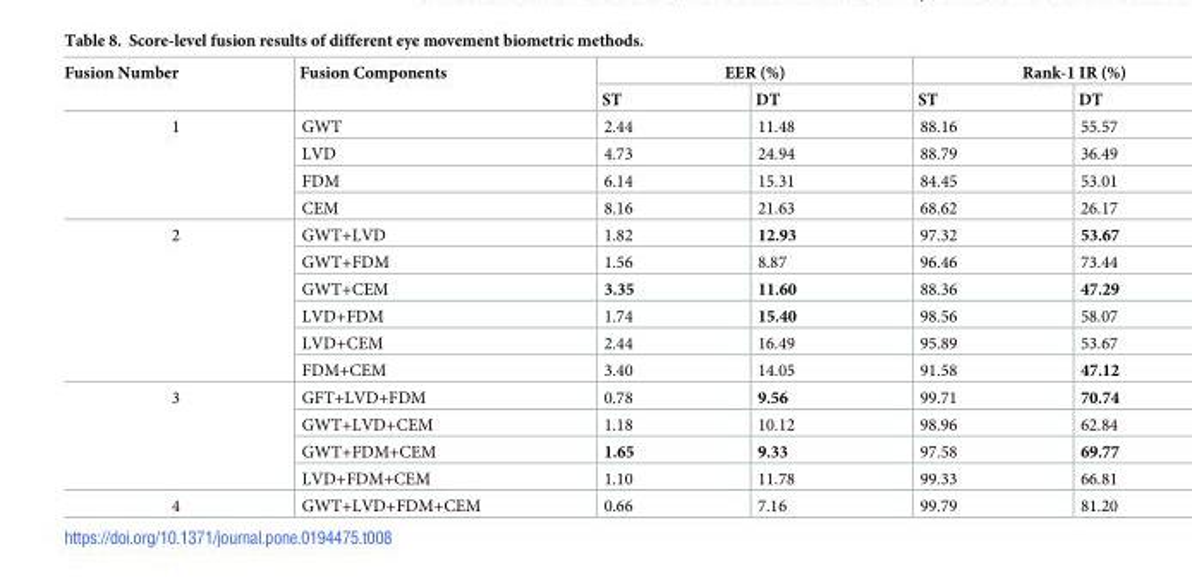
<table><thead><tr><td rowspan="2">Fusion Number</td><td rowspan="2">Fusion Components</td><td colspan="2">EER (%)</td><td colspan="2">Rank-1 IR (%)</td></tr><tr><td>ST</td><td>DT</td><td>ST</td><td>DT</td></tr></thead><tbody><tr><td rowspan="4">1</td><td>GWT</td><td>2.44</td><td>11.48</td><td>88.16</td><td>55.57</td></tr><tr><td>LVD</td><td>4.73</td><td>24.94</td><td>88.79</td><td>36.49</td></tr><tr><td>FDM</td><td>6.14</td><td>15.31</td><td>84.45</td><td>53.01</td></tr><tr><td>CEM</td><td>8.16</td><td>21.63</td><td>68.62</td><td>26.17</td></tr><tr><td rowspan="6">2</td><td>GWT+LVD</td><td>1.82</td><td>12.93</td><td>97.32</td><td>53.67</td></tr><tr><td>GWT+FDM</td><td>1.56</td><td>8.87</td><td>96.46</td><td>73.44</td></tr><tr><td>GWT+CEM</td><td>3.35</td><td>11.60</td><td>88.36</td><td>47.29</td></tr><tr><td>LVD+FDM</td><td>1.74</td><td>15.40</td><td>98.56</td><td>58.07</td></tr><tr><td>LVD+CEM</td><td>2.44</td><td>16.49</td><td>95.89</td><td>53.67</td></tr><tr><td>FDM+CEM</td><td>3.40</td><td>14.05</td><td>91.58</td><td>47.12</td></tr><tr><td rowspan="4">3</td><td>GFT+LVD+FDM</td><td>0.78</td><td>9.56</td><td>99.71</td><td>70.74</td></tr><tr><td>GWT+LVD+CEM</td><td>1.18</td><td>10.12</td><td>98.96</td><td>62.84</td></tr><tr><td>GWT+FDM+CEM</td><td>1.65</td><td>9.33</td><td>97.58</td><td>69.77</td></tr><tr><td>LVD+FDM+CEM</td><td>1.10</td><td>11.78</td><td>99.33</td><td>66.81</td></tr><tr><td>4</td><td>GWT+LVD+FDM+CEM</td><td>0.66</td><td>7.16</td><td>99.79</td><td>81.20</td></tr></tbody></table>